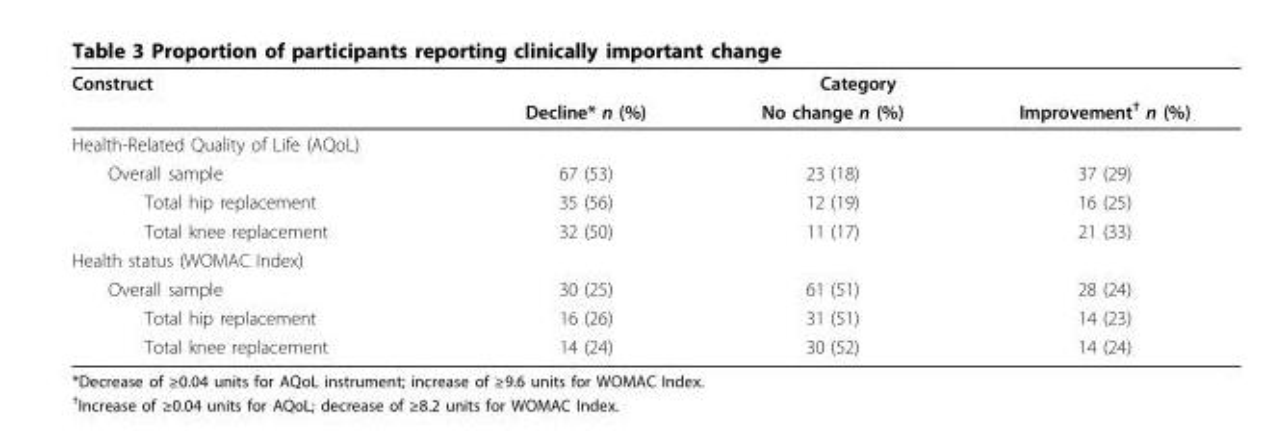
<table><thead><tr><td rowspan="2">Construct</td><td colspan="3">Category</td></tr><tr><td>Decline* n (%)</td><td>No change n (%)</td><td>Improvement<sup>†</sup> n (%)</td></tr></thead><tbody><tr><td colspan="4">Health-Related Quality of Life (AQoL)</td></tr><tr><td>Overall sample</td><td>67 (53)</td><td>23 (18)</td><td>37 (29)</td></tr><tr><td>Total hip replacement</td><td>35 (56)</td><td>12 (19)</td><td>16 (25)</td></tr><tr><td>Total knee replacement</td><td>32 (50)</td><td>11 (17)</td><td>21 (33)</td></tr><tr><td colspan="4">Health status (WOMAC Index)</td></tr><tr><td>Overall sample</td><td>30 (25)</td><td>61 (51)</td><td>28 (24)</td></tr><tr><td>Total hip replacement</td><td>16 (26)</td><td>31 (51)</td><td>14 (23)</td></tr><tr><td>Total knee replacement</td><td>14 (24)</td><td>30 (52)</td><td>14 (24)</td></tr></tbody></table>